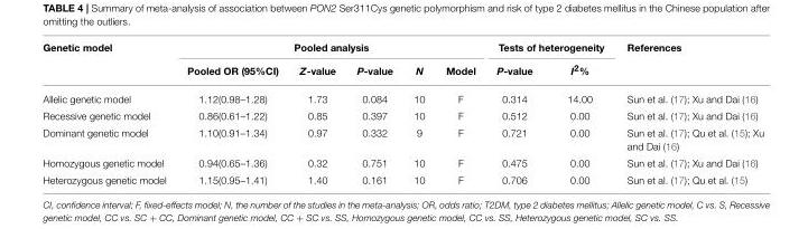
<table><thead><tr><td rowspan="2">Genetic model</td><td colspan="5">Pooled analysis</td><td colspan="2">Tests of heterogeneity</td><td rowspan="2">References</td></tr><tr><td>Pooled OR (95%CI)</td><td>Z-value</td><td>P-value</td><td>N</td><td>Model</td><td>P-value</td><td>I<sup>2</sup>%</td></tr></thead><tbody><tr><td>Allelic genetic model</td><td>1.12(0.98–1.28)</td><td>1.73</td><td>0.084</td><td>10</td><td>F</td><td>0.314</td><td>14.00</td><td>Sun et al. (17); Xu and Dai (16)</td></tr><tr><td>Recessive genetic model</td><td>0.86(0.61–1.22)</td><td>0.85</td><td>0.397</td><td>10</td><td>F</td><td>0.512</td><td>0.00</td><td>Sun et al. (17); Xu and Dai (16)</td></tr><tr><td>Dominant genetic model</td><td>1.10(0.91–1.34)</td><td>0.97</td><td>0.332</td><td>9</td><td>F</td><td>0.721</td><td>0.00</td><td>Sun et al. (17); Qu et al. (15); Xu and Dai (16)</td></tr><tr><td>Homozygous genetic model</td><td>0.94(0.65–1.36)</td><td>0.32</td><td>0.751</td><td>10</td><td>F</td><td>0.475</td><td>0.00</td><td>Sun et al. (17); Xu and Dai (16)</td></tr><tr><td>Heterozygous genetic model</td><td>1.15(0.95–1.41)</td><td>1.40</td><td>0.161</td><td>10</td><td>F</td><td>0.706</td><td>0.00</td><td>Sun et al. (17); Qu et al. (15)</td></tr></tbody></table>